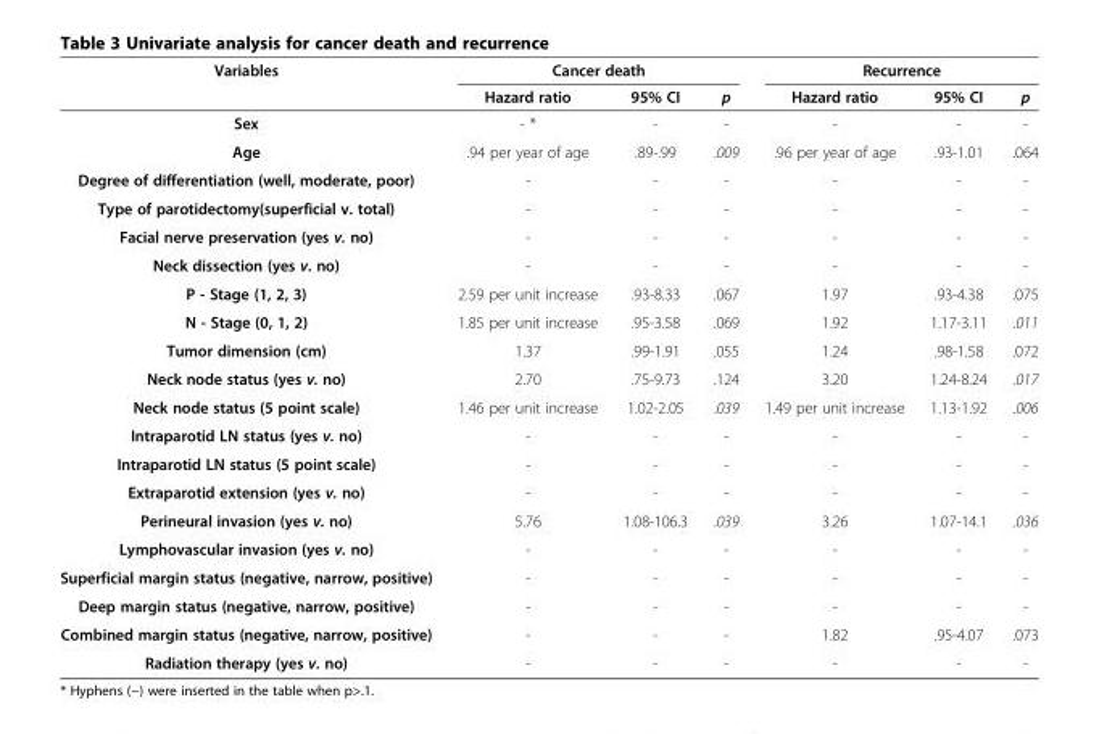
<table><thead><tr><td rowspan="2">Variables</td><td colspan="3">Cancer death</td><td colspan="3">Recurrence</td></tr><tr><td>Hazard ratio</td><td>95% CI</td><td>p</td><td>Hazard ratio</td><td>95% CI</td><td>p</td></tr></thead><tbody><tr><td>Sex</td><td>- *</td><td>-</td><td>-</td><td>-</td><td>-</td><td>-</td></tr><tr><td>Age</td><td>.94 per year of age</td><td>.89-.99</td><td>.009</td><td>.96 per year of age</td><td>.93-1.01</td><td>.064</td></tr><tr><td>Degree of differentiation (well, moderate, poor)</td><td>-</td><td>-</td><td>-</td><td>-</td><td>-</td><td>-</td></tr><tr><td>Type of parotidectomy(superficial v. total)</td><td>-</td><td>-</td><td>-</td><td>-</td><td>-</td><td>-</td></tr><tr><td>Facial nerve preservation (yes v. no)</td><td>-</td><td>-</td><td>-</td><td>-</td><td>-</td><td>-</td></tr><tr><td>Neck dissection (yes v. no)</td><td>-</td><td>-</td><td>-</td><td>-</td><td>-</td><td>-</td></tr><tr><td>P - Stage (1, 2, 3)</td><td>2.59 per unit increase</td><td>.93-8.33</td><td>.067</td><td>1.97</td><td>.93-4.38</td><td>.075</td></tr><tr><td>N - Stage (0, 1, 2)</td><td>1.85 per unit increase</td><td>.95-3.58</td><td>.069</td><td>1.92</td><td>1.17-3.11</td><td>.011</td></tr><tr><td>Tumor dimension (cm)</td><td>1.37</td><td>.99-1.91</td><td>.055</td><td>1.24</td><td>.98-1.58</td><td>.072</td></tr><tr><td>Neck node status (yes v. no)</td><td>2.70</td><td>.75-9.73</td><td>.124</td><td>3.20</td><td>1.24-8.24</td><td>.017</td></tr><tr><td>Neck node status (5 point scale)</td><td>1.46 per unit increase</td><td>1.02-2.05</td><td>.039</td><td>1.49 per unit increase</td><td>1.13-1.92</td><td>.006</td></tr><tr><td>Intraparotid LN status (yes v. no)</td><td>-</td><td>-</td><td>-</td><td>-</td><td>-</td><td>-</td></tr><tr><td>Intraparotid LN status (5 point scale)</td><td>-</td><td>-</td><td>-</td><td>-</td><td>-</td><td>-</td></tr><tr><td>Extraparotid extension (yes v. no)</td><td>-</td><td>-</td><td>-</td><td>-</td><td>-</td><td>-</td></tr><tr><td>Perineural invasion (yes v. no)</td><td>5.76</td><td>1.08-106.3</td><td>.039</td><td>3.26</td><td>1.07-14.1</td><td>.036</td></tr><tr><td>Lymphovascular invasion (yes v. no)</td><td>-</td><td>-</td><td>-</td><td>-</td><td>-</td><td>-</td></tr><tr><td>Superficial margin status (negative, narrow, positive)</td><td>-</td><td>-</td><td>-</td><td>-</td><td>-</td><td>-</td></tr><tr><td>Deep margin status (negative, narrow, positive)</td><td>-</td><td>-</td><td>-</td><td>-</td><td>-</td><td>-</td></tr><tr><td>Combined margin status (negative, narrow, positive)</td><td>-</td><td>-</td><td>-</td><td>1.82</td><td>.95-4.07</td><td>.073</td></tr><tr><td>Radiation therapy (yes v. no)</td><td>-</td><td>-</td><td>-</td><td>-</td><td>-</td><td>-</td></tr></tbody></table>